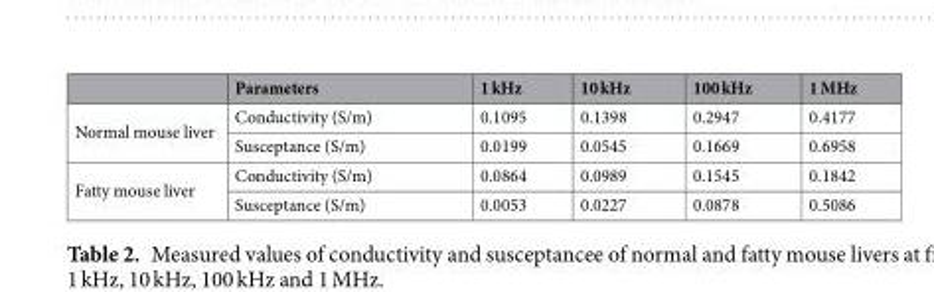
<table><thead><tr><td></td><td>Parameters</td><td>1 kHz</td><td>10 kHz</td><td>100 kHz</td><td>1 MHz</td></tr></thead><tbody><tr><td rowspan="2">Normal mouse liver</td><td>Conductivity (S/m)</td><td>0.1095</td><td>0.1398</td><td>0.2947</td><td>0.4177</td></tr><tr><td>Susceptance (S/m)</td><td>0.0199</td><td>0.0545</td><td>0.1669</td><td>0.6958</td></tr><tr><td rowspan="2">Fatty mouse liver</td><td>Conductivity (S/m)</td><td>0.0864</td><td>0.0989</td><td>0.1545</td><td>0.1842</td></tr><tr><td>Susceptance (S/m)</td><td>0.0053</td><td>0.0227</td><td>0.0878</td><td>0.5086</td></tr></tbody></table>